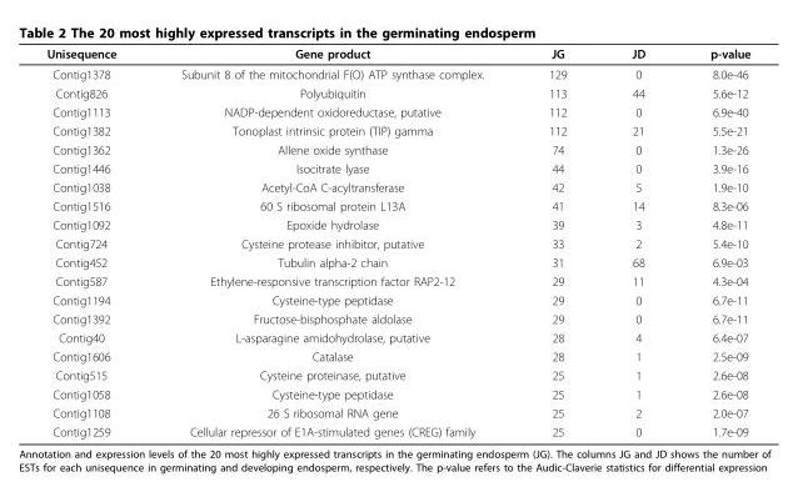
<table><thead><tr><td>Unisequence</td><td>Gene product</td><td>JG</td><td>JD</td><td>p-value</td></tr></thead><tbody><tr><td>Contig1378</td><td>Subunit 8 of the mitochondrial F(O) ATP synthase complex.</td><td>129</td><td>0</td><td>8.0e-46</td></tr><tr><td>Contig826</td><td>Polyubiquitin</td><td>113</td><td>44</td><td>5.6e-12</td></tr><tr><td>Contig1113</td><td>NADP-dependent oxidoreductase, putative</td><td>112</td><td>0</td><td>6.9e-40</td></tr><tr><td>Contig1382</td><td>Tonoplast intrinsic protein (TIP) gamma</td><td>112</td><td>21</td><td>5.5e-21</td></tr><tr><td>Contig1362</td><td>Allene oxide synthase</td><td>74</td><td>0</td><td>1.3e-26</td></tr><tr><td>Contig1446</td><td>Isocitrate lyase</td><td>44</td><td>0</td><td>3.9e-16</td></tr><tr><td>Contig1038</td><td>Acetyl-CoA C-acyltransferase</td><td>42</td><td>5</td><td>1.9e-10</td></tr><tr><td>Contig1516</td><td>60 S ribosomal protein L13A</td><td>41</td><td>14</td><td>8.3e-06</td></tr><tr><td>Contig1092</td><td>Epoxide hydrolase</td><td>39</td><td>3</td><td>4.8e-11</td></tr><tr><td>Contig724</td><td>Cysteine protease inhibitor, putative</td><td>33</td><td>2</td><td>5.4e-10</td></tr><tr><td>Contig452</td><td>Tubulin alpha-2 chain</td><td>31</td><td>68</td><td>6.9e-03</td></tr><tr><td>Contig587</td><td>Ethylene-responsive transcription factor RAP2-12</td><td>29</td><td>11</td><td>4.3e-04</td></tr><tr><td>Contig1194</td><td>Cysteine-type peptidase</td><td>29</td><td>0</td><td>6.7e-11</td></tr><tr><td>Contig1392</td><td>Fructose-bisphosphate aldolase</td><td>29</td><td>0</td><td>6.7e-11</td></tr><tr><td>Contig40</td><td>L-asparagine amidohydrolase, putative</td><td>28</td><td>4</td><td>6.4e-07</td></tr><tr><td>Contig1606</td><td>Catalase</td><td>28</td><td>1</td><td>2.5e-09</td></tr><tr><td>Contig515</td><td>Cysteine proteinase, putative</td><td>25</td><td>1</td><td>2.6e-08</td></tr><tr><td>Contig1058</td><td>Cysteine-type peptidase</td><td>25</td><td>1</td><td>2.6e-08</td></tr><tr><td>Contig1108</td><td>26 S ribosomal RNA gene</td><td>25</td><td>2</td><td>2.0e-07</td></tr><tr><td>Contig1259</td><td>Cellular repressor of E1A-stimulated genes (CREG) family</td><td>25</td><td>0</td><td>1.7e-09</td></tr></tbody></table>